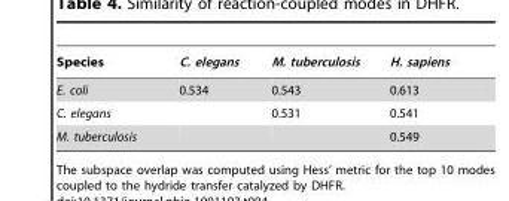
<table><thead><tr><td>Species</td><td>C. elegans</td><td>M. tuberculosis</td><td>H. sapiens</td></tr></thead><tbody><tr><td>E. coli</td><td>0.534</td><td>0.543</td><td>0.613</td></tr><tr><td>C. elegans</td><td></td><td>0.531</td><td>0.541</td></tr><tr><td>M. tuberculosis</td><td></td><td></td><td>0.549</td></tr></tbody></table>